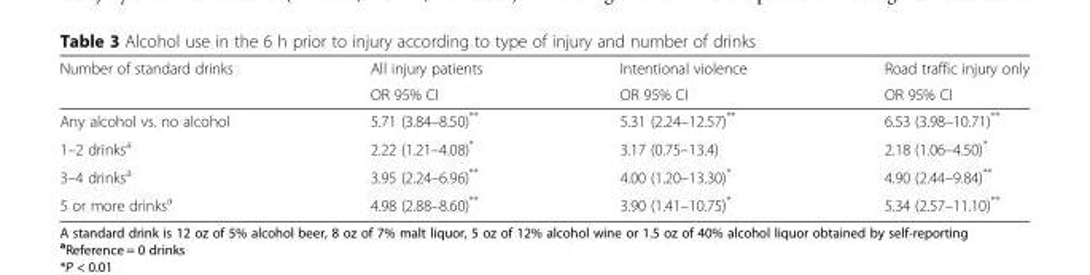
<table><thead><tr><td rowspan="2">Number of standard drinks</td><td rowspan="2">All injury patients OR 95% CI</td><td rowspan="2">Intentional violence OR 95% CI</td><td rowspan="2">Road traffic injury only OR 95% CI</td></tr><tr></tr></thead><tbody><tr><td>Any alcohol vs. no alcohol</td><td>5.71 (3.84–8.50)**</td><td>5.31 (2.24–12.57)**</td><td>6.53 (3.98–10.71)**</td></tr><tr><td>1–2 drinks<sup>a</sup></td><td>2.22 (1.21–4.08)*</td><td>3.17 (0.75–13.4)</td><td>2.18 (1.06–4.50)*</td></tr><tr><td>3–4 drinks<sup>a</sup></td><td>3.95 (2.24–6.96)**</td><td>4.00 (1.20–13.30)*</td><td>4.90 (2.44–9.84)**</td></tr><tr><td>5 or more drinks<sup>a</sup></td><td>4.98 (2.88–8.60)**</td><td>3.90 (1.41–10.75)*</td><td>5.34 (2.57–11.10)**</td></tr></tbody></table>